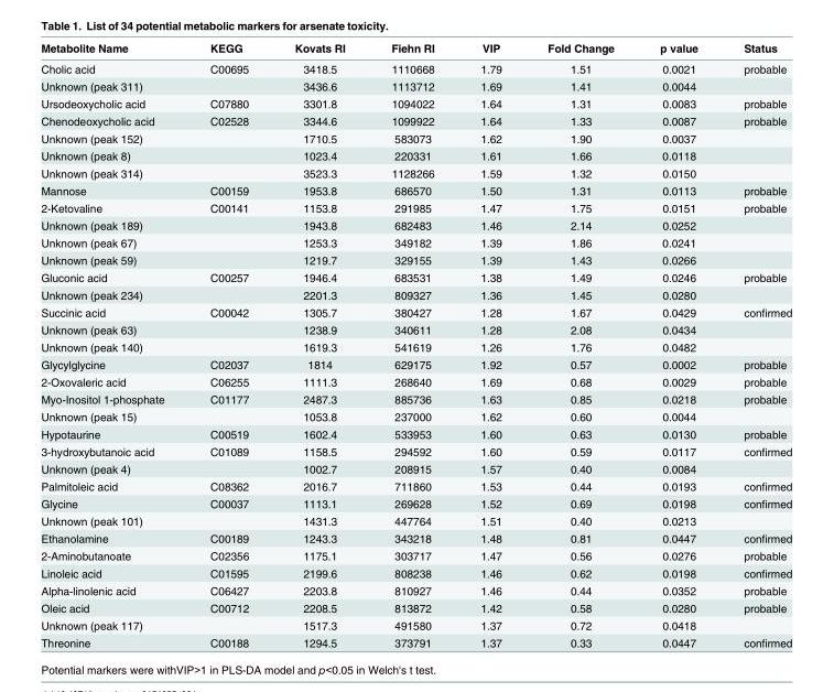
<table><thead><tr><td>Metabolite Name</td><td>KEGG</td><td>Kovats RI</td><td>Fiehn RI</td><td>VIP</td><td>Fold Change</td><td>p value</td><td>Status</td></tr></thead><tbody><tr><td>Cholic acid</td><td>C00695</td><td>3418.5</td><td>1110668</td><td>1.79</td><td>1.51</td><td>0.0021</td><td>probable</td></tr><tr><td>Unknown (peak 311)</td><td></td><td>3436.6</td><td>1113712</td><td>1.69</td><td>1.41</td><td>0.0044</td><td></td></tr><tr><td>Ursodeoxycholic acid</td><td>C07880</td><td>3301.8</td><td>1094022</td><td>1.64</td><td>1.31</td><td>0.0083</td><td>probable</td></tr><tr><td>Chenodeoxycholic acid</td><td>C02528</td><td>3344.6</td><td>1099922</td><td>1.64</td><td>1.33</td><td>0.0087</td><td>probable</td></tr><tr><td>Unknown (peak 152)</td><td></td><td>1710.5</td><td>583073</td><td>1.62</td><td>1.90</td><td>0.0037</td><td></td></tr><tr><td>Unknown (peak 8)</td><td></td><td>1023.4</td><td>220331</td><td>1.61</td><td>1.66</td><td>0.0118</td><td></td></tr><tr><td>Unknown (peak 314)</td><td></td><td>3523.3</td><td>1128266</td><td>1.59</td><td>1.32</td><td>0.0150</td><td></td></tr><tr><td>Mannose</td><td>C00159</td><td>1953.8</td><td>686570</td><td>1.50</td><td>1.31</td><td>0.0113</td><td>probable</td></tr><tr><td>2-Ketovaline</td><td>C00141</td><td>1153.8</td><td>291985</td><td>1.47</td><td>1.75</td><td>0.0151</td><td>probable</td></tr><tr><td>Unknown (peak 189)</td><td></td><td>1943.8</td><td>682483</td><td>1.46</td><td>2.14</td><td>0.0252</td><td></td></tr><tr><td>Unknown (peak 67)</td><td></td><td>1253.3</td><td>349182</td><td>1.39</td><td>1.86</td><td>0.0241</td><td></td></tr><tr><td>Unknown (peak 59)</td><td></td><td>1219.7</td><td>329155</td><td>1.39</td><td>1.43</td><td>0.0266</td><td></td></tr><tr><td>Gluconic acid</td><td>C00257</td><td>1946.4</td><td>683531</td><td>1.38</td><td>1.49</td><td>0.0246</td><td>probable</td></tr><tr><td>Unknown (peak 234)</td><td></td><td>2201.3</td><td>809327</td><td>1.36</td><td>1.45</td><td>0.0280</td><td></td></tr><tr><td>Succinic acid</td><td>C00042</td><td>1305.7</td><td>380427</td><td>1.28</td><td>1.67</td><td>0.0429</td><td>confirmed</td></tr><tr><td>Unknown (peak 63)</td><td></td><td>1238.9</td><td>340611</td><td>1.28</td><td>2.08</td><td>0.0434</td><td></td></tr><tr><td>Unknown (peak 140)</td><td></td><td>1619.3</td><td>541619</td><td>1.26</td><td>1.76</td><td>0.0482</td><td></td></tr><tr><td>Glycylglycine</td><td>C02037</td><td>1814</td><td>629175</td><td>1.92</td><td>0.57</td><td>0.0002</td><td>probable</td></tr><tr><td>2-Oxovaleric acid</td><td>C06255</td><td>1111.3</td><td>268640</td><td>1.69</td><td>0.68</td><td>0.0029</td><td>probable</td></tr><tr><td>Myo-Inositol 1-phosphate</td><td>C01177</td><td>2487.3</td><td>885736</td><td>1.63</td><td>0.85</td><td>0.0218</td><td>probable</td></tr><tr><td>Unknown (peak 15)</td><td></td><td>1053.8</td><td>237000</td><td>1.62</td><td>0.60</td><td>0.0044</td><td></td></tr><tr><td>Hypotaurine</td><td>C00519</td><td>1602.4</td><td>533953</td><td>1.60</td><td>0.63</td><td>0.0130</td><td>probable</td></tr><tr><td>3-hydroxybutanoic acid</td><td>C01089</td><td>1158.5</td><td>294592</td><td>1.60</td><td>0.59</td><td>0.0117</td><td>confirmed</td></tr><tr><td>Unknown (peak 4)</td><td></td><td>1002.7</td><td>208915</td><td>1.57</td><td>0.40</td><td>0.0084</td><td></td></tr><tr><td>Palmitoleic acid</td><td>C08362</td><td>2016.7</td><td>711860</td><td>1.53</td><td>0.44</td><td>0.0193</td><td>confirmed</td></tr><tr><td>Glycine</td><td>C00037</td><td>1113.1</td><td>269628</td><td>1.52</td><td>0.69</td><td>0.0198</td><td>confirmed</td></tr><tr><td>Unknown (peak 101)</td><td></td><td>1431.3</td><td>447764</td><td>1.51</td><td>0.40</td><td>0.0213</td><td></td></tr><tr><td>Ethanolamine</td><td>C00189</td><td>1243.3</td><td>343218</td><td>1.48</td><td>0.81</td><td>0.0447</td><td>confirmed</td></tr><tr><td>2-Aminobutanoate</td><td>C02356</td><td>1175.1</td><td>303717</td><td>1.47</td><td>0.56</td><td>0.0276</td><td>probable</td></tr><tr><td>Linoleic acid</td><td>C01595</td><td>2199.6</td><td>808238</td><td>1.46</td><td>0.62</td><td>0.0198</td><td>confirmed</td></tr><tr><td>Alpha-linolenic acid</td><td>C06427</td><td>2203.8</td><td>810927</td><td>1.46</td><td>0.44</td><td>0.0352</td><td>probable</td></tr><tr><td>Oleic acid</td><td>C00712</td><td>2208.5</td><td>813872</td><td>1.42</td><td>0.58</td><td>0.0280</td><td>probable</td></tr><tr><td>Unknown (peak 117)</td><td></td><td>1517.3</td><td>491580</td><td>1.37</td><td>0.72</td><td>0.0418</td><td></td></tr><tr><td>Threonine</td><td>C00188</td><td>1294.5</td><td>373791</td><td>1.37</td><td>0.33</td><td>0.0447</td><td>confirmed</td></tr></tbody></table>